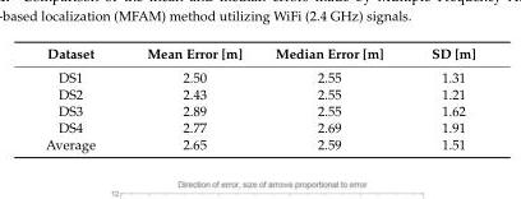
<table><thead><tr><td>Dataset</td><td>Mean Error [m]</td><td>Median Error [m]</td><td>SD [m]</td></tr></thead><tbody><tr><td>DS1</td><td>2.50</td><td>2.55</td><td>1.31</td></tr><tr><td>DS2</td><td>2.43</td><td>2.55</td><td>1.21</td></tr><tr><td>DS3</td><td>2.89</td><td>2.55</td><td>1.62</td></tr><tr><td>DS4</td><td>2.77</td><td>2.69</td><td>1.91</td></tr><tr><td>Average</td><td>2.65</td><td>2.59</td><td>1.51</td></tr></tbody></table>